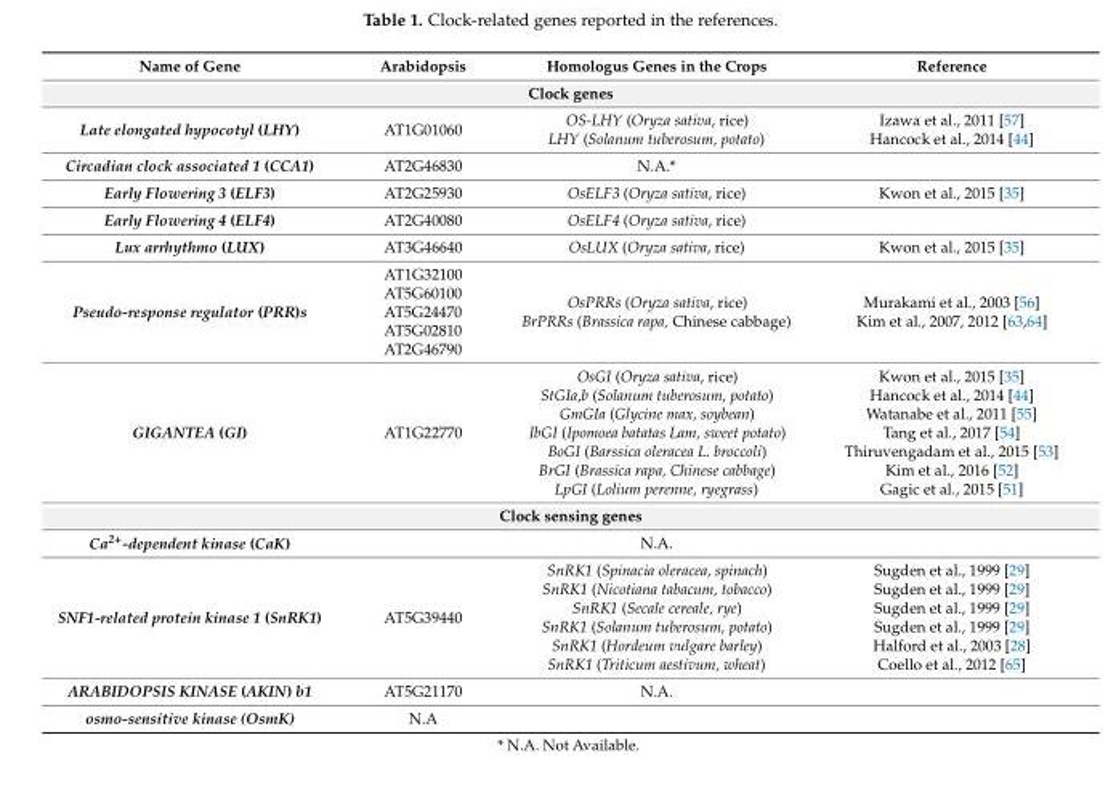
<table><thead><tr><td>Name of Gene</td><td>Arabidopsis</td><td>Homologus Genes in the Crops</td><td>Reference</td></tr></thead><tbody><tr><td colspan="4">Clock genes</td></tr><tr><td>Late elongated hypocotyl (LHY)</td><td>AT1G01060</td><td>OS-LHY (Oryza sativa, rice) LHY (Solanum tuberosum, potato)</td><td>Izawa et al., 2011 [57] Hancock et al., 2014 [44]</td></tr><tr><td>Circadian clock associated 1 (CCA1)</td><td>AT2G46830</td><td>N.A.*</td><td></td></tr><tr><td>Early Flowering 3 (ELF3)</td><td>AT2G25930</td><td>OsELF3 (Oryza sativa, rice)</td><td>Kwon et al., 2015 [35]</td></tr><tr><td>Early Flowering 4 (ELF4)</td><td>AT2G40080</td><td>OsELF4 (Oryza sativa, rice)</td><td></td></tr><tr><td>Lux arrhythmo (LUX)</td><td>AT3G46640</td><td>OsLUX (Oryza sativa, rice)</td><td>Kwon et al., 2015 [35]</td></tr><tr><td>Pseudo-response regulator (PRR)s</td><td>AT1G32100 AT5G60100 AT5G24470 AT5G02810 AT2G46790</td><td>OsPRRs (Oryza sativa, rice) BrPRRs (Brassica rapa, Chinese cabbage)</td><td>Murakami et al., 2003 [56] Kim et al., 2007, 2012 [63,64]</td></tr><tr><td>GIGANTEA (GI)</td><td>AT1G22770</td><td>OsGI (Oryza sativa, rice) StGIa,b (Solanum tuberosum, potato) GmGIa (Glycine max, soybean) IbGI (Ipomoea batatas Lam, sweet potato) BoGI (Barssica oleracea L. broccoli) BrGI (Brassica rapa, Chinese cabbage) LpGI (Lolium perenne, ryegrass)</td><td>Kwon et al., 2015 [35] Hancock et al., 2014 [44] Watanabe et al., 2011 [55] Tang et al., 2017 [54] Thiruvengadam et al., 2015 [53] Kim et al., 2016 [52] Gagic et al., 2015 [51]</td></tr><tr><td colspan="4">Clock sensing genes</td></tr><tr><td>Ca<sup>2+</sup>-dependent kinase (CaK)</td><td></td><td>N.A.</td><td></td></tr><tr><td>SNF1-related protein kinase 1 (SnRK1)</td><td>AT5G39440</td><td>SnRK1 (Spinacia oleracea, spinach) SnRK1 (Nicotiana tabacum, tobacco) SnRK1 (Secale cereale, rye) SnRK1 (Solanum tuberosum, potato) SnRK1 (Hordeum vulgare barley) SnRK1 (Triticum aestivum, wheat)</td><td>Sugden et al., 1999 [29] Sugden et al., 1999 [29] Sugden et al., 1999 [29] Sugden et al., 1999 [29] Halford et al., 2003 [28] Coello et al., 2012 [65]</td></tr><tr><td>ARABIDOPSIS KINASE (AKIN) b1</td><td>AT5G21170</td><td>N.A.</td><td></td></tr><tr><td>osmo-sensitive kinase (OsmK)</td><td>N.A</td><td></td><td></td></tr></tbody></table>